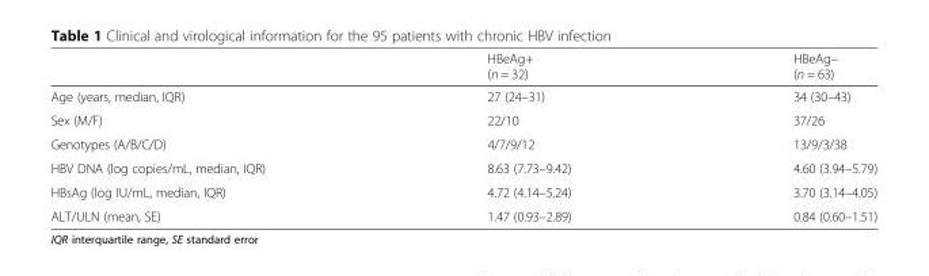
<table><thead><tr><td></td><td>HBeAg+ (n = 32)</td><td>HBeAg– (n = 63)</td></tr></thead><tbody><tr><td>Age (years, median, IQR)</td><td>27 (24–31)</td><td>34 (30–43)</td></tr><tr><td>Sex (M/F)</td><td>22/10</td><td>37/26</td></tr><tr><td>Genotypes (A/B/C/D)</td><td>4/7/9/12</td><td>13/9/3/38</td></tr><tr><td>HBV DNA (log copies/mL, median, IQR)</td><td>8.63 (7.73–9.42)</td><td>4.60 (3.94–5.79)</td></tr><tr><td>HBsAg (log IU/mL, median, IQR)</td><td>4.72 (4.14–5.24)</td><td>3.70 (3.14–4.05)</td></tr><tr><td>ALT/ULN (mean, SE)</td><td>1.47 (0.93–2.89)</td><td>0.84 (0.60–1.51)</td></tr></tbody></table>